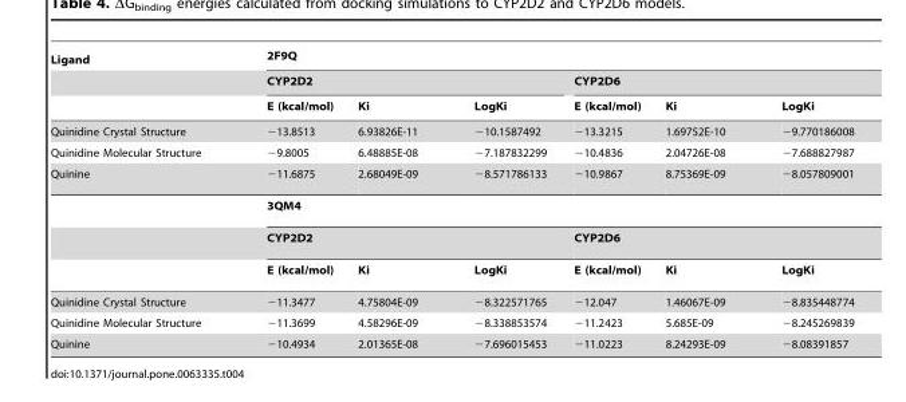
<table><thead><tr><td rowspan="3">Ligand</td><td colspan="6">2F9Q</td></tr><tr><td colspan="3">CYP2D2</td><td colspan="3">CYP2D6</td></tr><tr><td>E (kcal/mol)</td><td>Ki</td><td>LogKi</td><td>E (kcal/mol)</td><td>Ki</td><td>LogKi</td></tr></thead><tbody><tr><td>Quinidine Crystal Structure</td><td>−13.8513</td><td>6.93826E-11</td><td>−10.1587492</td><td>−13.3215</td><td>1.69752E-10</td><td>−9.770186008</td></tr><tr><td>Quinidine Molecular Structure</td><td>−9.8005</td><td>6.48885E-08</td><td>−7.187832299</td><td>−10.4836</td><td>2.04726E-08</td><td>−7.688827987</td></tr><tr><td rowspan="4">Quinine</td><td>−11.6875</td><td>2.68049E-09</td><td>−8.571786133</td><td>−10.9867</td><td>8.75369E-09</td><td>−8.057809001</td></tr><tr><td colspan="6">3QM4</td></tr><tr><td colspan="3">CYP2D2</td><td colspan="3">CYP2D6</td></tr><tr><td>E (kcal/mol)</td><td>Ki</td><td>LogKi</td><td>E (kcal/mol)</td><td>Ki</td><td>LogKi</td></tr><tr><td>Quinidine Crystal Structure</td><td>−11.3477</td><td>4.75804E-09</td><td>−8.322571765</td><td>−12.047</td><td>1.46067E-09</td><td>−8.835448774</td></tr><tr><td>Quinidine Molecular Structure</td><td>−11.3699</td><td>4.58296E-09</td><td>−8.338853574</td><td>−11.2423</td><td>5.685E-09</td><td>−8.245269839</td></tr><tr><td>Quinine</td><td>−10.4934</td><td>2.01365E-08</td><td>−7.696015453</td><td>−11.0223</td><td>8.24293E-09</td><td>−8.08391857</td></tr></tbody></table>